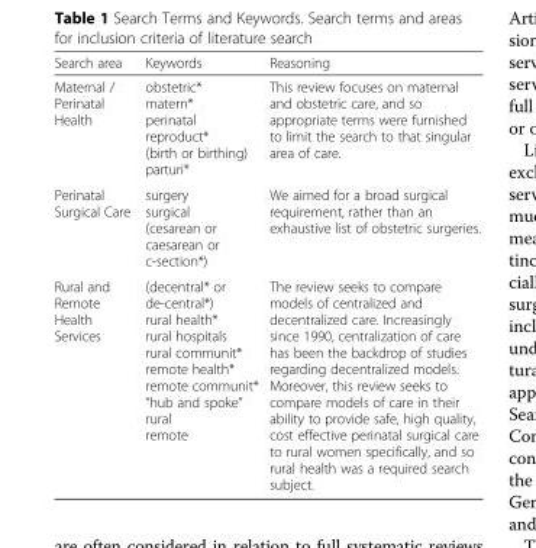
<table><thead><tr><td>Search area</td><td>Keywords</td><td>Reasoning</td></tr></thead><tbody><tr><td>Maternal / Perinatal Health</td><td>obstetric* matern* perinatal reproduct* (birth or birthing) parturi*</td><td>This review focuses on maternal and obstetric care, and so appropriate terms were furnished to limit the search to that singular area of care.</td></tr><tr><td>Perinatal Surgical Care</td><td>surgery surgical (cesarean or caesarean or c-section*)</td><td>We aimed for a broad surgical requirement, rather than an exhaustive list of obstetric surgeries.</td></tr><tr><td>Rural and Remote Health Services</td><td>(decentral* or de-central*) rural health* rural hospitals rural communit* remote health* remote communit* “hub and spoke” rural remote</td><td>The review seeks to compare models of centralized and decentralized care. Increasingly since 1990, centralization of care has been the backdrop of studies regarding decentralized models. Moreover, this review seeks to compare models of care in their ability to provide safe, high quality, cost effective perinatal surgical care to rural women specifically, and so rural health was a required search subject.</td></tr></tbody></table>